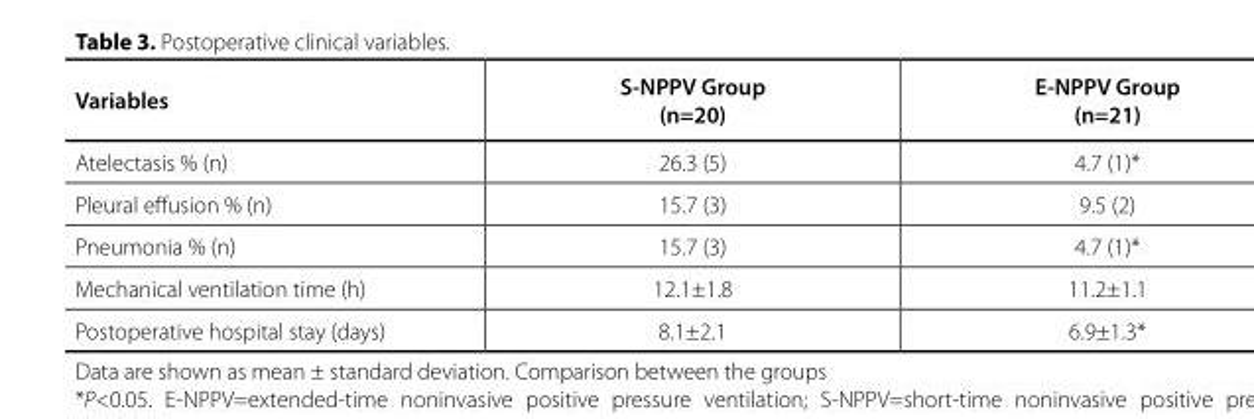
<table><thead><tr><td>Variables</td><td>S-NPPV Group (n=20)</td><td>E-NPPV Group (n=21)</td></tr></thead><tbody><tr><td>Atelectasis % (n)</td><td>26.3 (5)</td><td>4.7 (1)*</td></tr><tr><td>Pleural effusion % (n)</td><td>15.7 (3)</td><td>9.5 (2)</td></tr><tr><td>Pneumonia % (n)</td><td>15.7 (3)</td><td>4.7 (1)*</td></tr><tr><td>Mechanical ventilation time (h)</td><td>12.1±1.8</td><td>11.2±1.1</td></tr><tr><td>Postoperative hospital stay (days)</td><td>8.1±2.1</td><td>6.9±1.3*</td></tr></tbody></table>